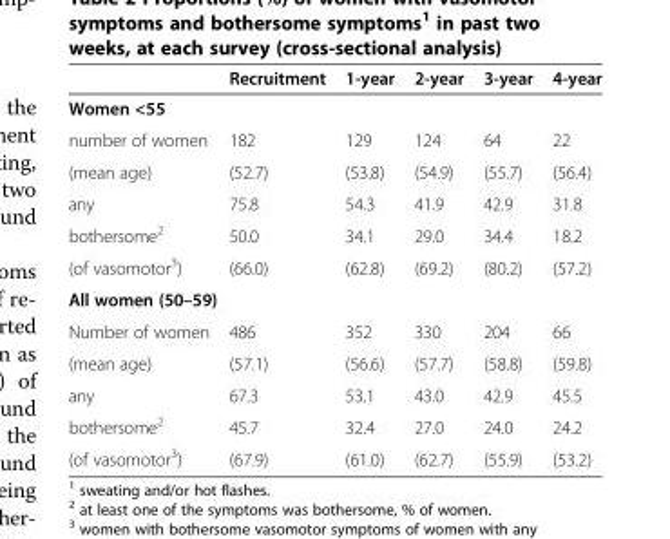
<table><thead><tr><td></td><td>Recruitment</td><td>1-year</td><td>2-year</td><td>3-year</td><td>4-year</td></tr></thead><tbody><tr><td colspan="6">Women &lt;55</td></tr><tr><td>number of women</td><td>182</td><td>129</td><td>124</td><td>64</td><td>22</td></tr><tr><td>(mean age)</td><td>(52.7)</td><td>(53.8)</td><td>(54.9)</td><td>(55.7)</td><td>(56.4)</td></tr><tr><td>any</td><td>75.8</td><td>54.3</td><td>41.9</td><td>42.9</td><td>31.8</td></tr><tr><td>bothersome<sup>2</sup></td><td>50.0</td><td>34.1</td><td>29.0</td><td>34.4</td><td>18.2</td></tr><tr><td>(of vasomotor<sup>3</sup>)</td><td>(66.0)</td><td>(62.8)</td><td>(69.2)</td><td>(80.2)</td><td>(57.2)</td></tr><tr><td colspan="6">All women (50–59)</td></tr><tr><td>Number of women</td><td>486</td><td>352</td><td>330</td><td>204</td><td>66</td></tr><tr><td>(mean age)</td><td>(57.1)</td><td>(56.6)</td><td>(57.7)</td><td>(58.8)</td><td>(59.8)</td></tr><tr><td>any</td><td>67.3</td><td>53.1</td><td>43.0</td><td>42.9</td><td>45.5</td></tr><tr><td>bothersome<sup>2</sup></td><td>45.7</td><td>32.4</td><td>27.0</td><td>24.0</td><td>24.2</td></tr><tr><td>(of vasomotor<sup>3</sup>)</td><td>(67.9)</td><td>(61.0)</td><td>(62.7)</td><td>(55.9)</td><td>(53.2)</td></tr></tbody></table>